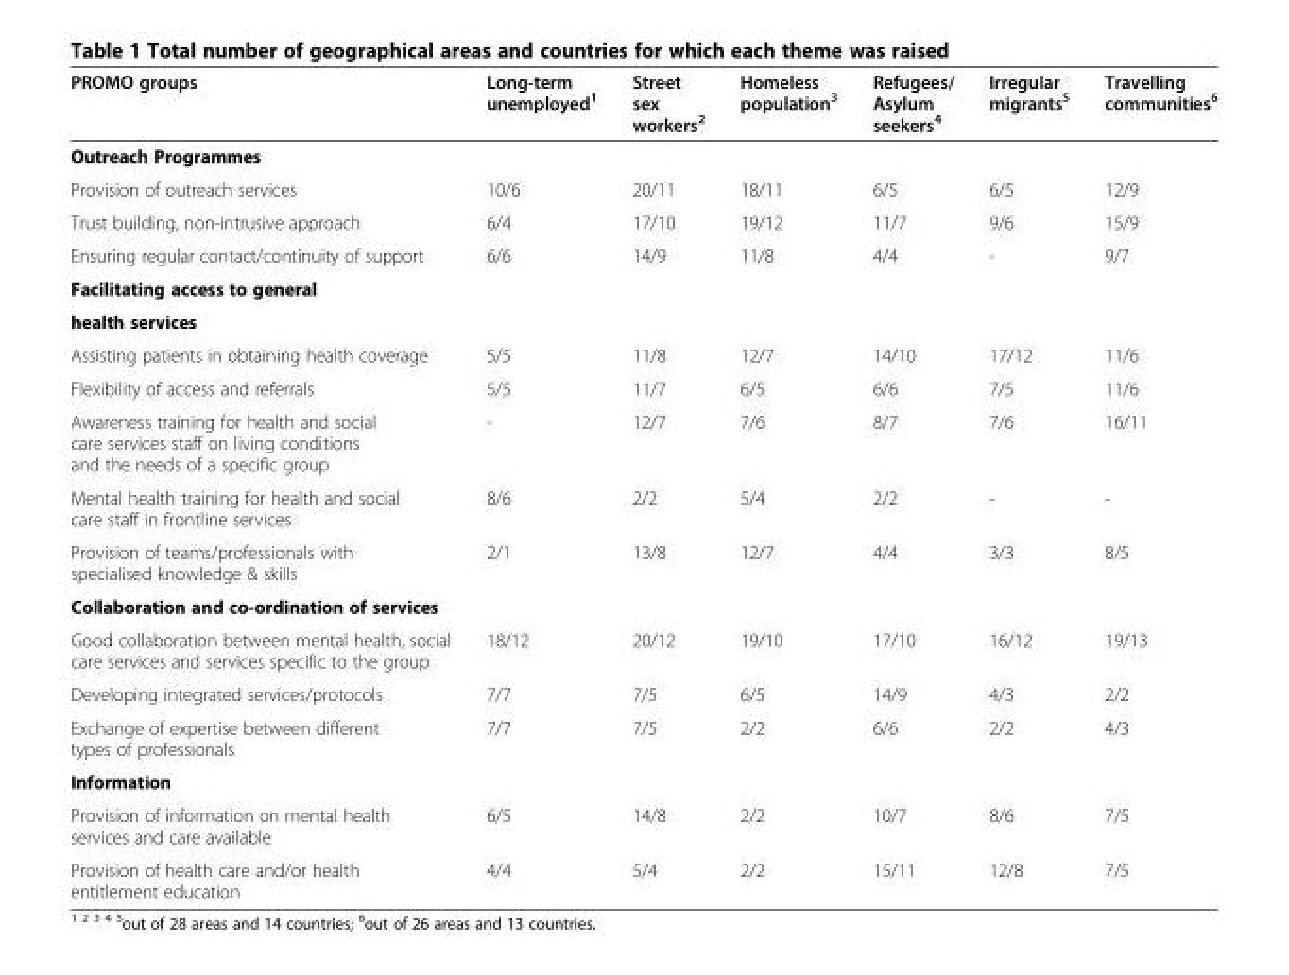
<table><thead><tr><td>PROMO groups</td><td>Long-term unemployed<sup>1</sup></td><td>Street sex workers<sup>2</sup></td><td>Homeless population<sup>3</sup></td><td>Refugees/ Asylum seekers<sup>4</sup></td><td>Irregular migrants<sup>5</sup></td><td>Travelling communities<sup>6</sup></td></tr></thead><tbody><tr><td colspan="7">Outreach Programmes</td></tr><tr><td>Provision of outreach services</td><td>10/6</td><td>20/11</td><td>18/11</td><td>6/5</td><td>6/5</td><td>12/9</td></tr><tr><td>Trust building, non-intrusive approach</td><td>6/4</td><td>17/10</td><td>19/12</td><td>11/7</td><td>9/6</td><td>15/9</td></tr><tr><td>Ensuring regular contact/continuity of support</td><td>6/6</td><td>14/9</td><td>11/8</td><td>4/4</td><td>-</td><td>9/7</td></tr><tr><td colspan="7">Facilitating access to general</td></tr><tr><td colspan="7">health services</td></tr><tr><td>Assisting patients in obtaining health coverage</td><td>5/5</td><td>11/8</td><td>12/7</td><td>14/10</td><td>17/12</td><td>11/6</td></tr><tr><td>Flexibility of access and referrals</td><td>5/5</td><td>11/7</td><td>6/5</td><td>6/6</td><td>7/5</td><td>11/6</td></tr><tr><td>Awareness training for health and social care services staff on living conditions and the needs of a specific group</td><td>-</td><td>12/7</td><td>7/6</td><td>8/7</td><td>7/6</td><td>16/11</td></tr><tr><td>Mental health training for health and social care staff in frontline services</td><td>8/6</td><td>2/2</td><td>5/4</td><td>2/2</td><td>-</td><td>-</td></tr><tr><td>Provision of teams/professionals with specialised knowledge &amp; skills</td><td>2/1</td><td>13/8</td><td>12/7</td><td>4/4</td><td>3/3</td><td>8/5</td></tr><tr><td colspan="7">Collaboration and co-ordination of services</td></tr><tr><td>Good collaboration between mental health, social care services and services specific to the group</td><td>18/12</td><td>20/12</td><td>19/10</td><td>17/10</td><td>16/12</td><td>19/13</td></tr><tr><td>Developing integrated services/protocols</td><td>7/7</td><td>7/5</td><td>6/5</td><td>14/9</td><td>4/3</td><td>2/2</td></tr><tr><td>Exchange of expertise between different types of professionals</td><td>7/7</td><td>7/5</td><td>2/2</td><td>6/6</td><td>2/2</td><td>4/3</td></tr><tr><td colspan="7">Information</td></tr><tr><td>Provision of information on mental health services and care available</td><td>6/5</td><td>14/8</td><td>2/2</td><td>10/7</td><td>8/6</td><td>7/5</td></tr><tr><td>Provision of health care and/or health entitlement education</td><td>4/4</td><td>5/4</td><td>2/2</td><td>15/11</td><td>12/8</td><td>7/5</td></tr></tbody></table>